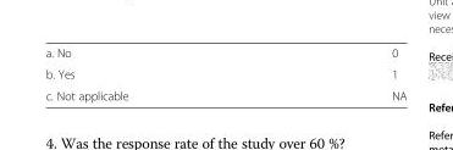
<table><tbody><tr><td>a. No</td><td>0</td></tr><tr><td>b. Yes</td><td>1</td></tr><tr><td>c. Not applicable</td><td>NA</td></tr></tbody></table>